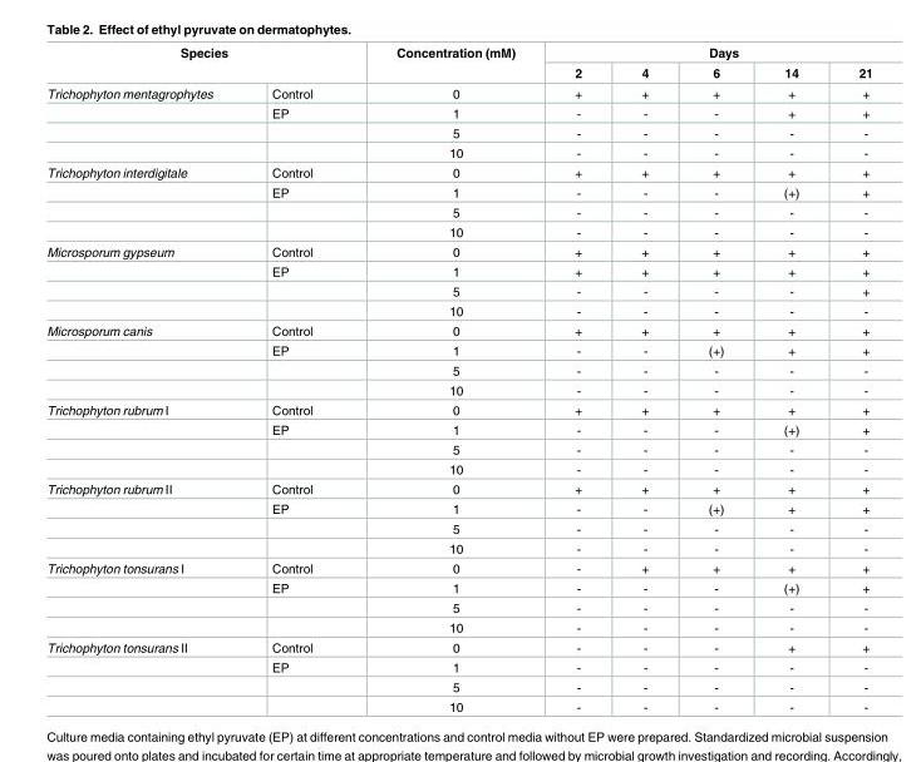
<table><thead><tr><td rowspan="2" colspan="2">Species</td><td rowspan="3">Concentration (mM) 0</td><td colspan="5">Days</td></tr><tr><td rowspan="2">2 +</td><td rowspan="2">4 +</td><td rowspan="2">6 +</td><td rowspan="2">14 +</td><td rowspan="2">21 +</td></tr><tr><td>Trichophyton mentagrophytes</td><td>Control</td></tr></thead><tbody><tr><td></td><td>EP</td><td>1</td><td>-</td><td>-</td><td>-</td><td>+</td><td>+</td></tr><tr><td></td><td></td><td>5</td><td>-</td><td>-</td><td>-</td><td>-</td><td>-</td></tr><tr><td></td><td></td><td>10</td><td>-</td><td>-</td><td>-</td><td>-</td><td>-</td></tr><tr><td rowspan="4">Trichophyton interdigitale</td><td>Control</td><td>0</td><td>+</td><td>+</td><td>+</td><td>+</td><td>+</td></tr><tr><td>EP</td><td>1</td><td>-</td><td>-</td><td>-</td><td>(+)</td><td>+</td></tr><tr><td></td><td>5</td><td>-</td><td>-</td><td>-</td><td>-</td><td>-</td></tr><tr><td></td><td>10</td><td>-</td><td>-</td><td>-</td><td>-</td><td>-</td></tr><tr><td rowspan="4">Microsporum gypseum</td><td>Control</td><td>0</td><td>+</td><td>+</td><td>+</td><td>+</td><td>+</td></tr><tr><td>EP</td><td>1</td><td>+</td><td>+</td><td>+</td><td>+</td><td>+</td></tr><tr><td></td><td>5</td><td>-</td><td>-</td><td>-</td><td>-</td><td>+</td></tr><tr><td></td><td>10</td><td>-</td><td>-</td><td>-</td><td>-</td><td>-</td></tr><tr><td rowspan="4">Microsporum canis</td><td>Control</td><td>0</td><td>+</td><td>+</td><td>+</td><td>+</td><td>+</td></tr><tr><td>EP</td><td>1</td><td>-</td><td>-</td><td>(+)</td><td>+</td><td>+</td></tr><tr><td></td><td>5</td><td>-</td><td>-</td><td>-</td><td>-</td><td>-</td></tr><tr><td></td><td>10</td><td>-</td><td>-</td><td>-</td><td>-</td><td>-</td></tr><tr><td rowspan="4">Trichophyton rubrum I</td><td>Control</td><td>0</td><td>+</td><td>+</td><td>+</td><td>+</td><td>+</td></tr><tr><td>EP</td><td>1</td><td>-</td><td>-</td><td>-</td><td>(+)</td><td>+</td></tr><tr><td></td><td>5</td><td>-</td><td>-</td><td>-</td><td>-</td><td>-</td></tr><tr><td></td><td>10</td><td>-</td><td>-</td><td>-</td><td>-</td><td>-</td></tr><tr><td rowspan="4">Trichophyton rubrum II</td><td>Control</td><td>0</td><td>+</td><td>+</td><td>+</td><td>+</td><td>+</td></tr><tr><td>EP</td><td>1</td><td>-</td><td>-</td><td>(+)</td><td>+</td><td>+</td></tr><tr><td></td><td>5</td><td>-</td><td>-</td><td>-</td><td>-</td><td>-</td></tr><tr><td></td><td>10</td><td>-</td><td>-</td><td>-</td><td>-</td><td>-</td></tr><tr><td rowspan="4">Trichophyton tonsurans I</td><td>Control</td><td>0</td><td>-</td><td>+</td><td>+</td><td>+</td><td>+</td></tr><tr><td>EP</td><td>1</td><td>-</td><td>-</td><td>-</td><td>(+)</td><td>+</td></tr><tr><td></td><td>5</td><td>-</td><td>-</td><td>-</td><td>-</td><td>-</td></tr><tr><td></td><td>10</td><td>-</td><td>-</td><td>-</td><td>-</td><td>-</td></tr><tr><td rowspan="4">Trichophyton tonsurans II</td><td>Control</td><td>0</td><td>-</td><td>-</td><td>-</td><td>+</td><td>+</td></tr><tr><td>EP</td><td>1</td><td>-</td><td>-</td><td>-</td><td>-</td><td>-</td></tr><tr><td></td><td>5</td><td>-</td><td>-</td><td>-</td><td>-</td><td>-</td></tr><tr><td></td><td>10</td><td>-</td><td>-</td><td>-</td><td>-</td><td>-</td></tr></tbody></table>